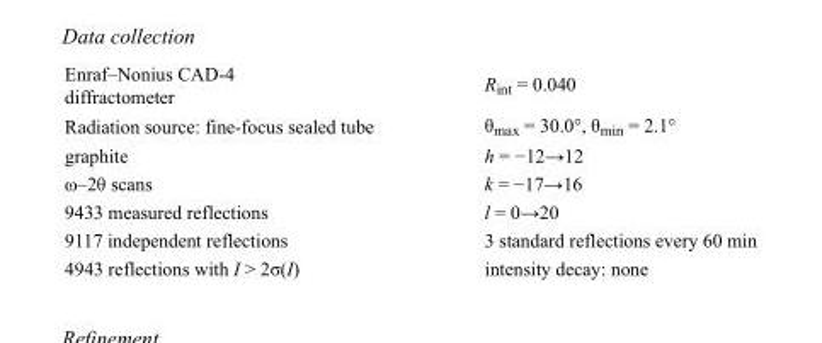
<table><tbody><tr><td>Enraf–Nonius CAD-4 diffractometer</td><td>R<sub>int</sub> = 0.040</td></tr><tr><td>Radiation source: fine-focus sealed tube</td><td>θ<sub>max</sub> = 30.0°, θ<sub>min</sub> = 2.1°</td></tr><tr><td>graphite</td><td>h = −12→12</td></tr><tr><td>ω–2θ scans</td><td>k = −17→16</td></tr><tr><td>9433 measured reflections</td><td>l = 0→20</td></tr><tr><td>9117 independent reflections</td><td>3 standard reflections every 60 min</td></tr><tr><td>4943 reflections with I &gt; 2σ(I)</td><td>intensity decay: none</td></tr></tbody></table>